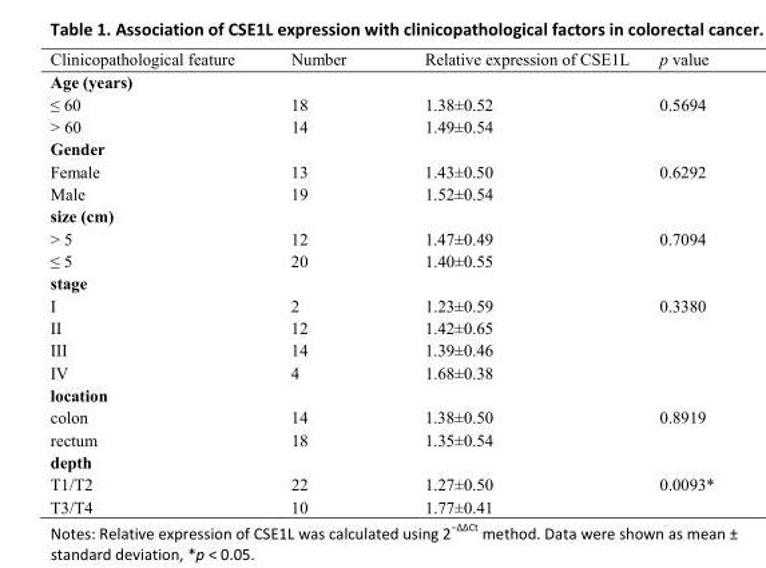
<table><tbody><tr><td>Clinicopathological feature</td><td>Number</td><td>Relative expression of CSE1L</td><td>p value</td></tr><tr><td colspan="4">Age (years)</td></tr><tr><td>≤ 60</td><td>18</td><td>1.38±0.52</td><td>0.5694</td></tr><tr><td>&gt; 60</td><td>14</td><td>1.49±0.54</td><td></td></tr><tr><td colspan="4">Gender</td></tr><tr><td>Female</td><td>13</td><td>1.43±0.50</td><td>0.6292</td></tr><tr><td>Male</td><td>19</td><td>1.52±0.54</td><td></td></tr><tr><td colspan="4">size (cm)</td></tr><tr><td>&gt; 5</td><td>12</td><td>1.47±0.49</td><td>0.7094</td></tr><tr><td>≤ 5</td><td>20</td><td>1.40±0.55</td><td></td></tr><tr><td colspan="4">stage</td></tr><tr><td>I</td><td>2</td><td>1.23±0.59</td><td>0.3380</td></tr><tr><td>II</td><td>12</td><td>1.42±0.65</td><td></td></tr><tr><td>III</td><td>14</td><td>1.39±0.46</td><td></td></tr><tr><td>IV</td><td>4</td><td>1.68±0.38</td><td></td></tr><tr><td colspan="4">location</td></tr><tr><td>colon</td><td>14</td><td>1.38±0.50</td><td>0.8919</td></tr><tr><td>rectum</td><td>18</td><td>1.35±0.54</td><td></td></tr><tr><td colspan="4">depth</td></tr><tr><td>T1/T2</td><td>22</td><td>1.27±0.50</td><td>0.0093*</td></tr><tr><td>T3/T4</td><td>10</td><td>1.77±0.41</td><td></td></tr></tbody></table>